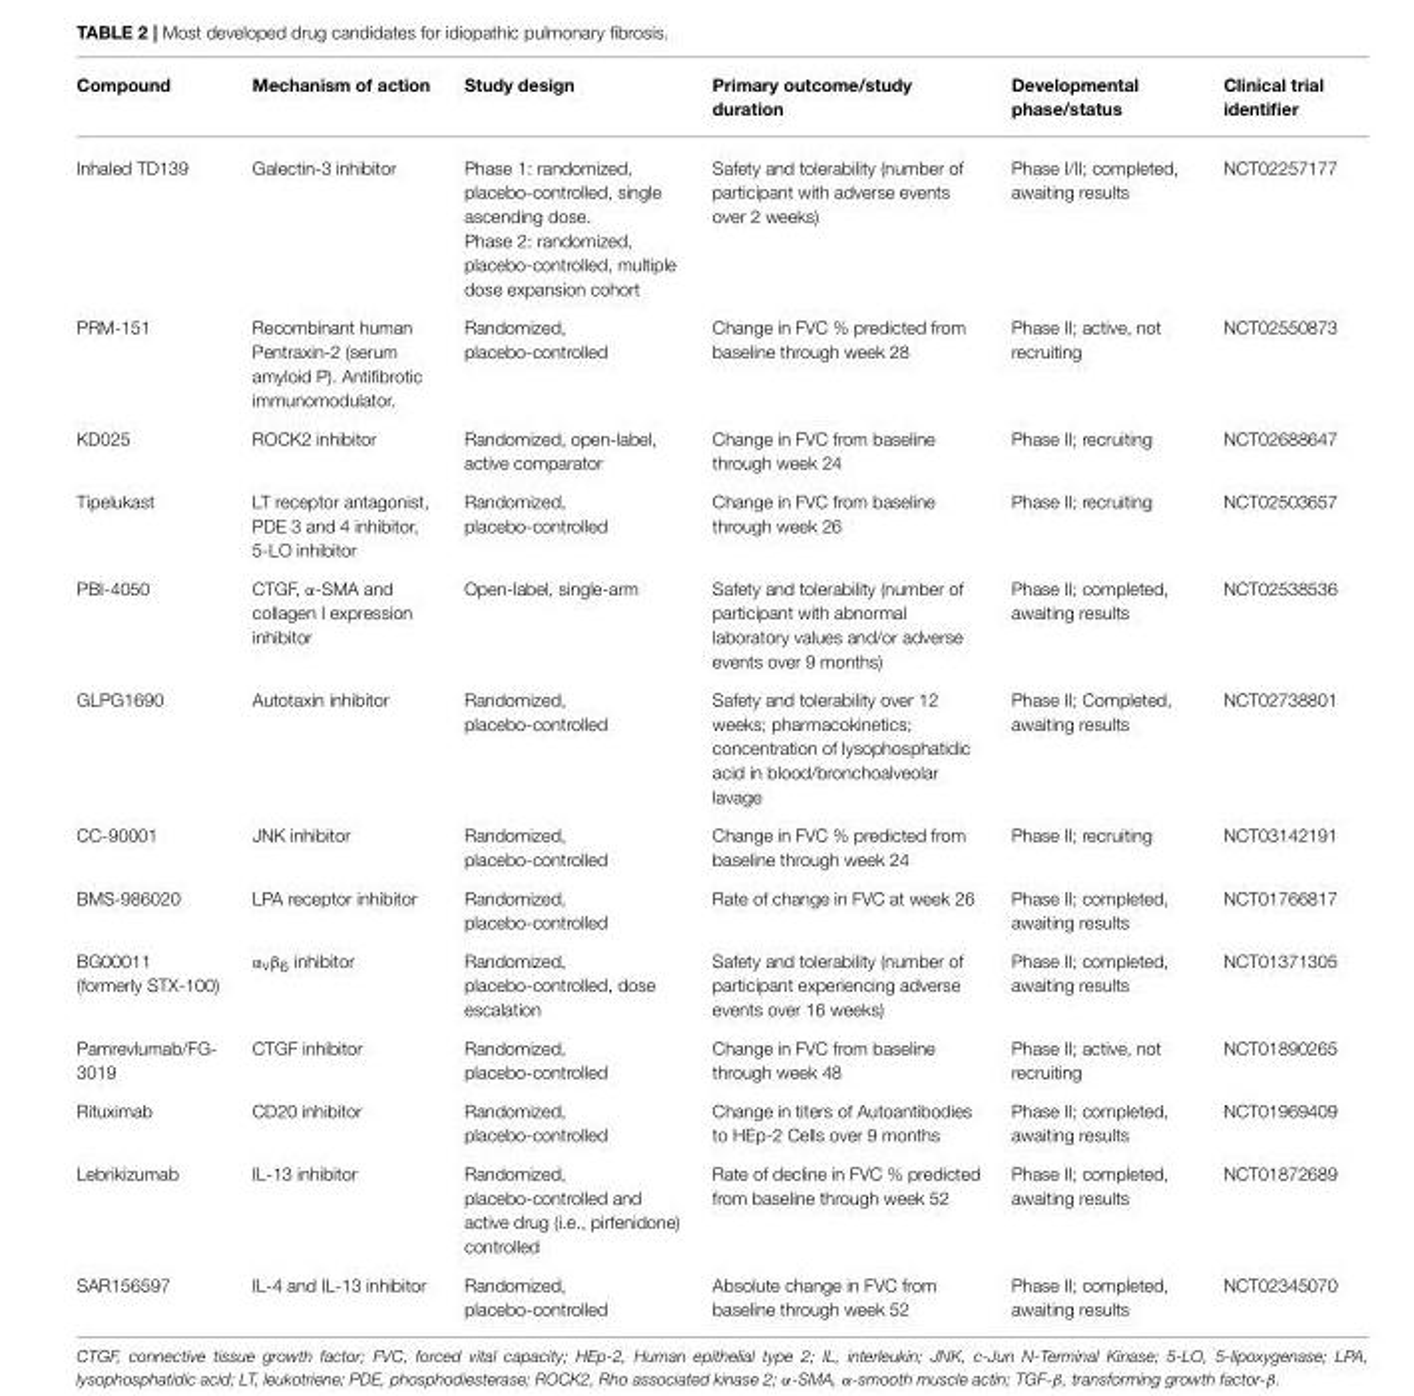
<table><thead><tr><td>Compound</td><td>Mechanism of action</td><td>Study design</td><td>Primary outcome/study duration</td><td>Developmental phase/status</td><td>Clinical trial identifier</td></tr></thead><tbody><tr><td>Inhaled TD139</td><td>Galectin-3 inhibitor</td><td>Phase 1: randomized, placebo-controlled, single ascending dose. Phase 2: randomized, placebo-controlled, multiple dose expansion cohort</td><td>Safety and tolerability (number of participant with adverse events over 2 weeks)</td><td>Phase I/II; completed, awaiting results</td><td>NCT02257177</td></tr><tr><td>PRM-151</td><td>Recombinant human Pentraxin-2 (serum amyloid P). Antifibrotic immunomodulator.</td><td>Randomized, placebo-controlled</td><td>Change in FVC % predicted from baseline through week 28</td><td>Phase II; active, not recruiting</td><td>NCT02550873</td></tr><tr><td>KD025</td><td>ROCK2 inhibitor</td><td>Randomized, open-label, active comparator</td><td>Change in FVC from baseline through week 24</td><td>Phase II; recruiting</td><td>NCT02688647</td></tr><tr><td>Tipelukast</td><td>LT receptor antagonist, PDE 3 and 4 inhibitor, 5-LO inhibitor</td><td>Randomized, placebo-controlled</td><td>Change in FVC from baseline through week 26</td><td>Phase II; recruiting</td><td>NCT02503657</td></tr><tr><td>PBI-4050</td><td>CTGF, α-SMA and collagen I expression inhibitor</td><td>Open-label, single-arm</td><td>Safety and tolerability (number of participant with abnormal laboratory values and/or adverse events over 9 months)</td><td>Phase II; completed, awaiting results</td><td>NCT02538536</td></tr><tr><td>GLPG1690</td><td>Autotaxin inhibitor</td><td>Randomized, placebo-controlled</td><td>Safety and tolerability over 12 weeks; pharmacokinetics; concentration of lysophosphatidic acid in blood/bronchoalveolar lavage</td><td>Phase II; Completed, awaiting results</td><td>NCT02738801</td></tr><tr><td>CC-90001</td><td>JNK inhibitor</td><td>Randomized, placebo-controlled</td><td>Change in FVC % predicted from baseline through week 24</td><td>Phase II; recruiting</td><td>NCT03142191</td></tr><tr><td>BMS-986020</td><td>LPA receptor inhibitor</td><td>Randomized, placebo-controlled</td><td>Rate of change in FVC at week 26</td><td>Phase II; completed, awaiting results</td><td>NCT01766817</td></tr><tr><td>BG00011 (formerly STX-100)</td><td>α<sub>v</sub>β<sub>6</sub> inhibitor</td><td>Randomized, placebo-controlled, dose escalation</td><td>Safety and tolerability (number of participant experiencing adverse events over 16 weeks)</td><td>Phase II; completed, awaiting results</td><td>NCT01371305</td></tr><tr><td>Pamrevlumab/FG- 3019</td><td>CTGF inhibitor</td><td>Randomized, placebo-controlled</td><td>Change in FVC from baseline through week 48</td><td>Phase II; active, not recruiting</td><td>NCT01890265</td></tr><tr><td>Rituximab</td><td>CD20 inhibitor</td><td>Randomized, placebo-controlled</td><td>Change in titers of Autoantibodies to HEp-2 Cells over 9 months</td><td>Phase II; completed, awaiting results</td><td>NCT01969409</td></tr><tr><td>Lebrikizumab</td><td>IL-13 inhibitor</td><td>Randomized, placebo-controlled and active drug (i.e., pirfenidone) controlled</td><td>Rate of decline in FVC % predicted from baseline through week 52</td><td>Phase II; completed, awaiting results</td><td>NCT01872689</td></tr><tr><td>SAR156597</td><td>IL-4 and IL-13 inhibitor</td><td>Randomized, placebo-controlled</td><td>Absolute change in FVC from baseline through week 52</td><td>Phase II; completed, awaiting results</td><td>NCT02345070</td></tr></tbody></table>